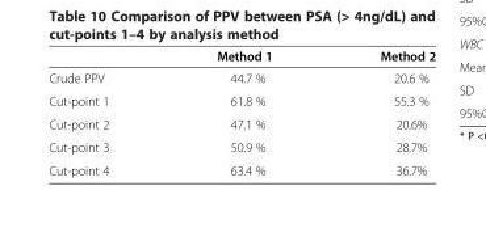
<table><thead><tr><td></td><td>Method 1</td><td>Method 2</td></tr></thead><tbody><tr><td>Crude PPV</td><td>44.7 %</td><td>20.6 %</td></tr><tr><td>Cut-point 1</td><td>61.8 %</td><td>55.3 %</td></tr><tr><td>Cut-point 2</td><td>47.1 %</td><td>20.6%</td></tr><tr><td>Cut-point 3</td><td>50.9 %</td><td>28.7%</td></tr><tr><td>Cut-point 4</td><td>63.4 %</td><td>36.7%</td></tr></tbody></table>